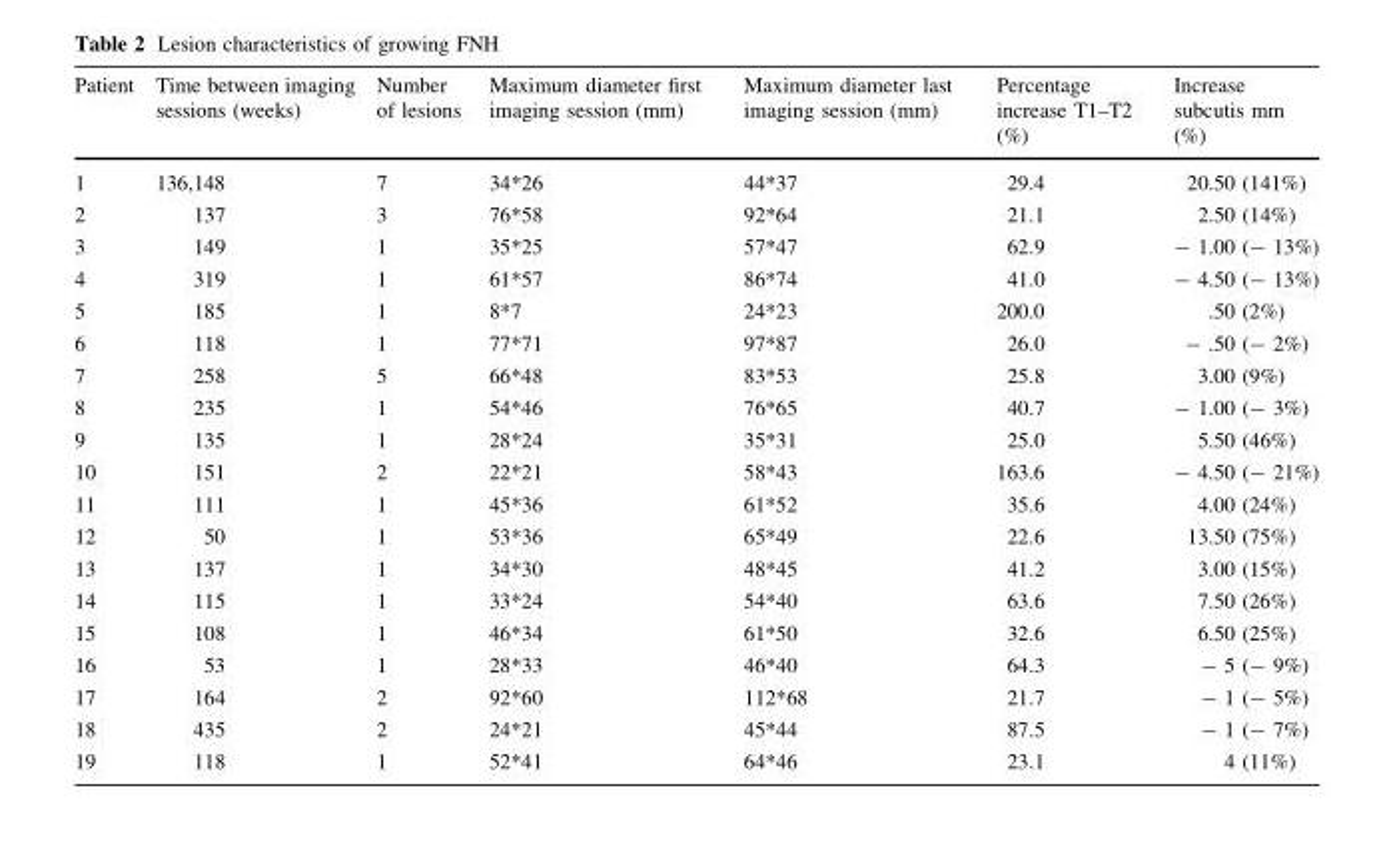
<table><thead><tr><td>Patient</td><td>Time between imaging sessions (weeks)</td><td>Number of lesions</td><td>Maximum diameter first imaging session (mm)</td><td>Maximum diameter last imaging session (mm)</td><td>Percentage increase T1–T2 (%)</td><td>Increase subcutis mm (%)</td></tr></thead><tbody><tr><td>1</td><td>136,148</td><td>7</td><td>34*26</td><td>44*37</td><td>29.4</td><td>20.50 (141%)</td></tr><tr><td>2</td><td>137</td><td>3</td><td>76*58</td><td>92*64</td><td>21.1</td><td>2.50 (14%)</td></tr><tr><td>3</td><td>149</td><td>1</td><td>35*25</td><td>57*47</td><td>62.9</td><td>- 1.00 (- 13%)</td></tr><tr><td>4</td><td>319</td><td>1</td><td>61*57</td><td>86*74</td><td>41.0</td><td>- 4.50 (- 13%)</td></tr><tr><td>5</td><td>185</td><td>1</td><td>8*7</td><td>24*23</td><td>200.0</td><td>.50 (2%)</td></tr><tr><td>6</td><td>118</td><td>1</td><td>77*71</td><td>97*87</td><td>26.0</td><td>- .50 (- 2%)</td></tr><tr><td>7</td><td>258</td><td>5</td><td>66*48</td><td>83*53</td><td>25.8</td><td>3.00 (9%)</td></tr><tr><td>8</td><td>235</td><td>1</td><td>54*46</td><td>76*65</td><td>40.7</td><td>- 1.00 (- 3%)</td></tr><tr><td>9</td><td>135</td><td>1</td><td>28*24</td><td>35*31</td><td>25.0</td><td>5.50 (46%)</td></tr><tr><td>10</td><td>151</td><td>2</td><td>22*21</td><td>58*43</td><td>163.6</td><td>- 4.50 (- 21%)</td></tr><tr><td>11</td><td>111</td><td>1</td><td>45*36</td><td>61*52</td><td>35.6</td><td>4.00 (24%)</td></tr><tr><td>12</td><td>50</td><td>1</td><td>53*36</td><td>65*49</td><td>22.6</td><td>13.50 (75%)</td></tr><tr><td>13</td><td>137</td><td>1</td><td>34*30</td><td>48*45</td><td>41.2</td><td>3.00 (15%)</td></tr><tr><td>14</td><td>115</td><td>1</td><td>33*24</td><td>54*40</td><td>63.6</td><td>7.50 (26%)</td></tr><tr><td>15</td><td>108</td><td>1</td><td>46*34</td><td>61*50</td><td>32.6</td><td>6.50 (25%)</td></tr><tr><td>16</td><td>53</td><td>1</td><td>28*33</td><td>46*40</td><td>64.3</td><td>- 5 (- 9%)</td></tr><tr><td>17</td><td>164</td><td>2</td><td>92*60</td><td>112*68</td><td>21.7</td><td>- 1 (- 5%)</td></tr><tr><td>18</td><td>435</td><td>2</td><td>24*21</td><td>45*44</td><td>87.5</td><td>- 1 (- 7%)</td></tr><tr><td>19</td><td>118</td><td>1</td><td>52*41</td><td>64*46</td><td>23.1</td><td>4 (11%)</td></tr></tbody></table>